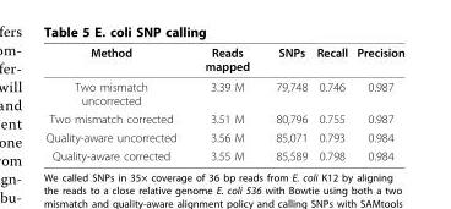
<table><thead><tr><td>Method</td><td>Reads mapped</td><td>SNPs</td><td>Recall</td><td>Precision</td></tr></thead><tbody><tr><td>Two mismatch uncorrected</td><td>3.39 M</td><td>79,748</td><td>0.746</td><td>0.987</td></tr><tr><td>Two mismatch corrected</td><td>3.51 M</td><td>80,796</td><td>0.755</td><td>0.987</td></tr><tr><td>Quality-aware uncorrected</td><td>3.56 M</td><td>85,071</td><td>0.793</td><td>0.984</td></tr><tr><td>Quality-aware corrected</td><td>3.55 M</td><td>85,589</td><td>0.798</td><td>0.984</td></tr></tbody></table>